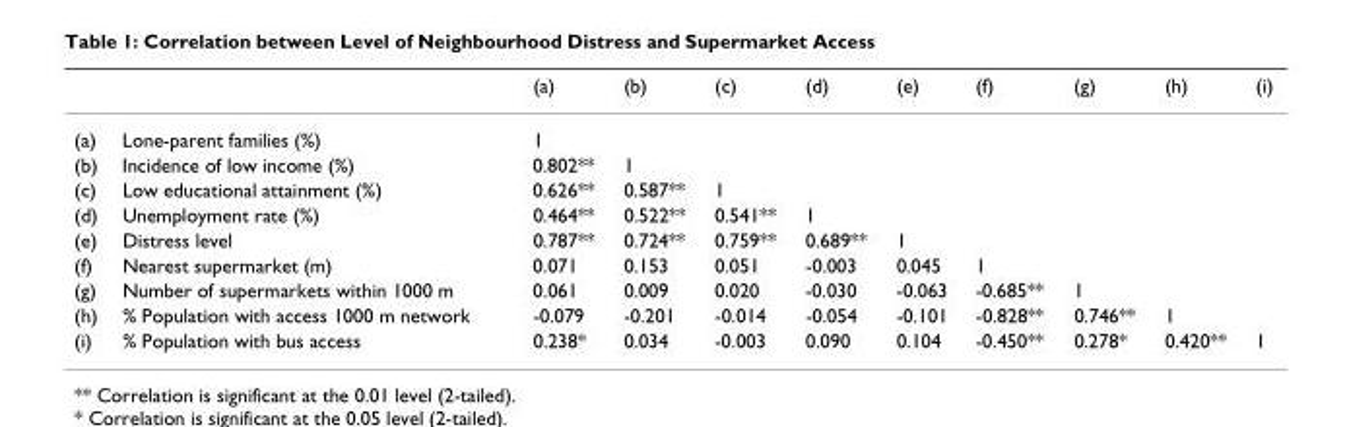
<table><thead><tr><td></td><td></td><td>(a)</td><td>(b)</td><td>(c)</td><td>(d)</td><td>(e)</td><td>(f)</td><td>(g)</td><td>(h)</td><td>(i)</td></tr></thead><tbody><tr><td>(a)</td><td>Lone-parent families (%)</td><td>1</td><td></td><td></td><td></td><td></td><td></td><td></td><td></td><td></td></tr><tr><td>(b)</td><td>Incidence of low income (%)</td><td>0.802**</td><td>1</td><td></td><td></td><td></td><td></td><td></td><td></td><td></td></tr><tr><td>(c)</td><td>Low educational attainment (%)</td><td>0.626**</td><td>0.587**</td><td>1</td><td></td><td></td><td></td><td></td><td></td><td></td></tr><tr><td>(d)</td><td>Unemployment rate (%)</td><td>0.464**</td><td>0.522**</td><td>0.541**</td><td>1</td><td></td><td></td><td></td><td></td><td></td></tr><tr><td>(e)</td><td>Distress level</td><td>0.787**</td><td>0.724**</td><td>0.759**</td><td>0.689**</td><td>1</td><td></td><td></td><td></td><td></td></tr><tr><td>(f)</td><td>Nearest supermarket (m)</td><td>0.071</td><td>0.153</td><td>0.051</td><td>-0.003</td><td>0.045</td><td>1</td><td></td><td></td><td></td></tr><tr><td>(g)</td><td>Number of supermarkets within 1000 m</td><td>0.061</td><td>0.009</td><td>0.020</td><td>-0.030</td><td>-0.063</td><td>-0.685**</td><td>1</td><td></td><td></td></tr><tr><td>(h)</td><td>% Population with access 1000 m network</td><td>-0.079</td><td>-0.201</td><td>-0.014</td><td>-0.054</td><td>-0.101</td><td>-0.828**</td><td>0.746**</td><td>1</td><td></td></tr><tr><td>(i)</td><td>% Population with bus access</td><td>0.238*</td><td>0.034</td><td>-0.003</td><td>0.090</td><td>0.104</td><td>-0.450**</td><td>0.278*</td><td>0.420**</td><td>1</td></tr></tbody></table>